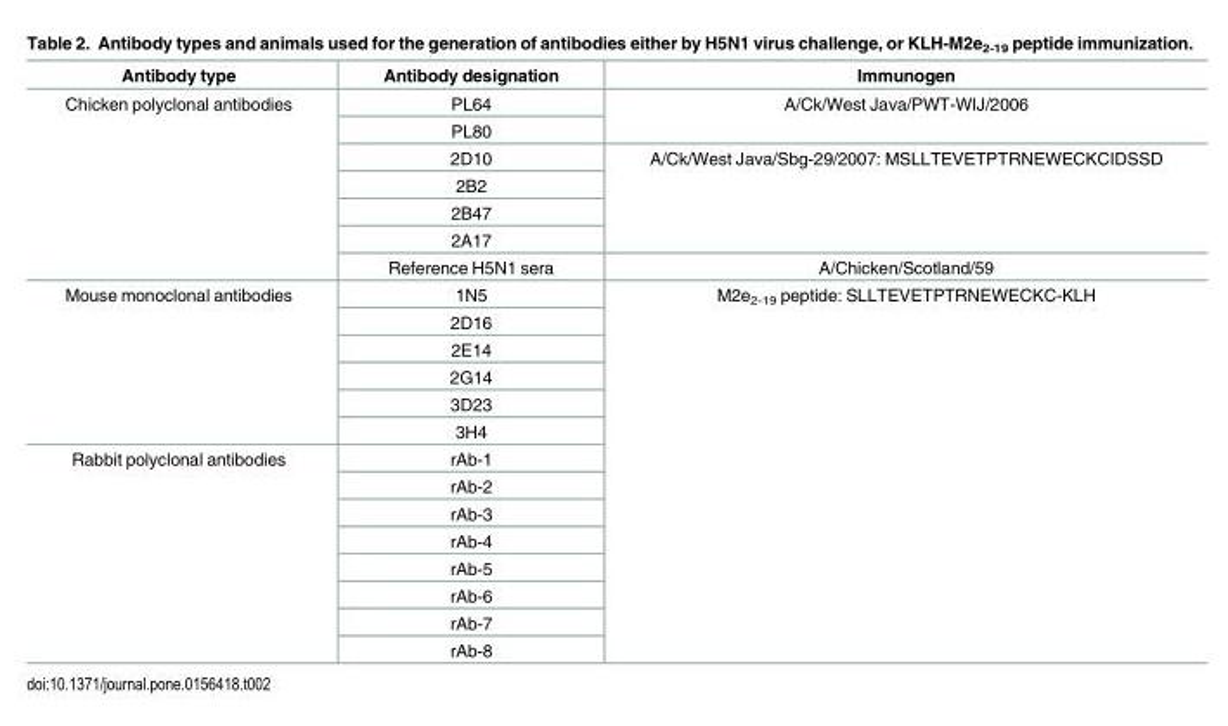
<table><thead><tr><td>Antibody type</td><td>Antibody designation</td><td>Immunogen</td></tr></thead><tbody><tr><td rowspan="7">Chicken polyclonal antibodies</td><td>PL64</td><td rowspan="2">A/Ck/West Java/PWT-WIJ/2006</td></tr><tr><td>PL80</td></tr><tr><td>2D10</td><td rowspan="4">A/Ck/West Java/Sbg-29/2007: MSLLTEVETPTRNEWECKCIDSSD</td></tr><tr><td>2B2</td></tr><tr><td>2B47</td></tr><tr><td>2A17</td></tr><tr><td>Reference H5N1 sera</td><td>A/Chicken/Scotland/59</td></tr><tr><td rowspan="6">Mouse monoclonal antibodies</td><td>1N5</td><td rowspan="14">M2e<sub>2-19</sub> peptide: SLLTEVETPTRNEWECKC-KLH</td></tr><tr><td>2D16</td></tr><tr><td>2E14</td></tr><tr><td>2G14</td></tr><tr><td>3D23</td></tr><tr><td>3H4</td></tr><tr><td rowspan="8">Rabbit polyclonal antibodies</td><td>rAb-1</td></tr><tr><td>rAb-2</td></tr><tr><td>rAb-3</td></tr><tr><td>rAb-4</td></tr><tr><td>rAb-5</td></tr><tr><td>rAb-6</td></tr><tr><td>rAb-7</td></tr><tr><td>rAb-8</td></tr></tbody></table>